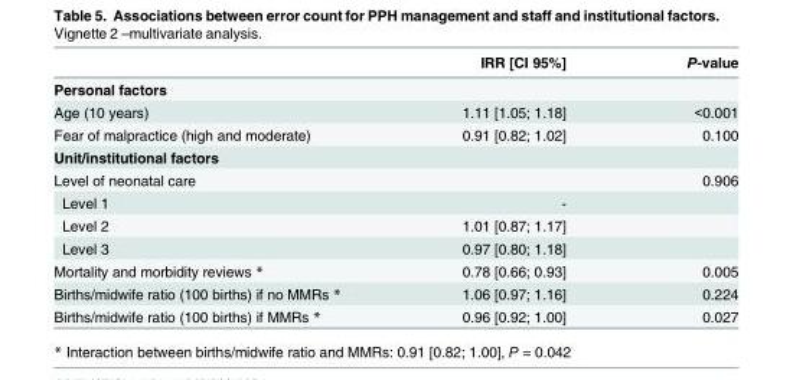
<table><thead><tr><td></td><td>IRR [CI 95%]</td><td>P-value</td></tr></thead><tbody><tr><td colspan="3">Personal factors</td></tr><tr><td>Age (10 years)</td><td>1.11 [1.05; 1.18]</td><td>&lt;0.001</td></tr><tr><td>Fear of malpractice (high and moderate)</td><td>0.91 [0.82; 1.02]</td><td>0.100</td></tr><tr><td colspan="3">Unit/institutional factors</td></tr><tr><td>Level of neonatal care</td><td></td><td>0.906</td></tr><tr><td>Level 1</td><td>-</td><td></td></tr><tr><td>Level 2</td><td>1.01 [0.87; 1.17]</td><td></td></tr><tr><td>Level 3</td><td>0.97 [0.80; 1.18]</td><td></td></tr><tr><td>Mortality and morbidity reviews *</td><td>0.78 [0.66; 0.93]</td><td>0.005</td></tr><tr><td>Births/midwife ratio (100 births) if no MMRs *</td><td>1.06 [0.97; 1.16]</td><td>0.224</td></tr><tr><td>Births/midwife ratio (100 births) if MMRs *</td><td>0.96 [0.92; 1.00]</td><td>0.027</td></tr></tbody></table>